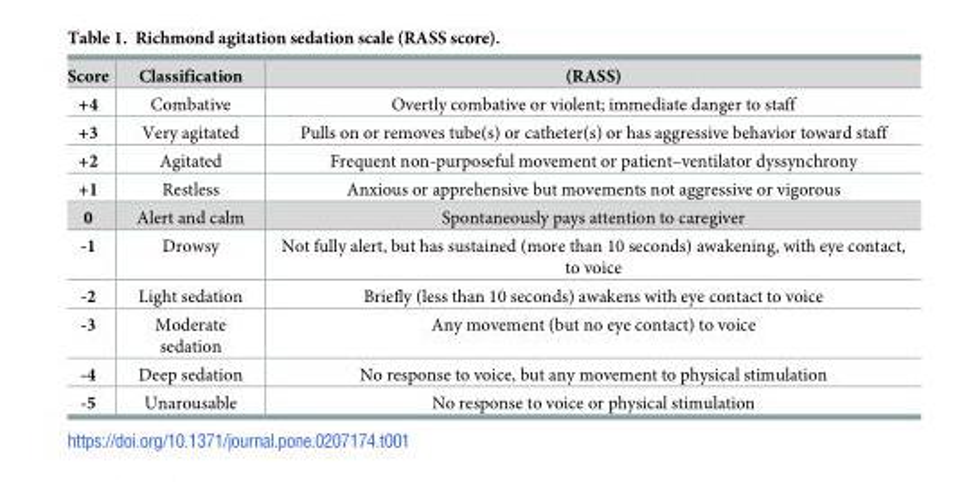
<table><thead><tr><td>Score</td><td>Classification</td><td>(RASS)</td></tr></thead><tbody><tr><td>+4</td><td>Combative</td><td>Overtly combative or violent; immediate danger to staff</td></tr><tr><td>+3</td><td>Very agitated</td><td>Pulls on or removes tube(s) or catheter(s) or has aggressive behavior toward staff</td></tr><tr><td>+2</td><td>Agitated</td><td>Frequent non-purposeful movement or patient–ventilator dyssynchrony</td></tr><tr><td>+1</td><td>Restless</td><td>Anxious or apprehensive but movements not aggressive or vigorous</td></tr><tr><td>0</td><td>Alert and calm</td><td>Spontaneously pays attention to caregiver</td></tr><tr><td>-1</td><td>Drowsy</td><td>Not fully alert, but has sustained (more than 10 seconds) awakening, with eye contact, to voice</td></tr><tr><td>-2</td><td>Light sedation</td><td>Briefly (less than 10 seconds) awakens with eye contact to voice</td></tr><tr><td>-3</td><td>Moderate sedation</td><td>Any movement (but no eye contact) to voice</td></tr><tr><td>-4</td><td>Deep sedation</td><td>No response to voice, but any movement to physical stimulation</td></tr><tr><td>-5</td><td>Unarousable</td><td>No response to voice or physical stimulation</td></tr></tbody></table>